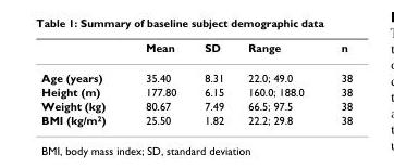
<table><thead><tr><td></td><td>Mean</td><td>SD</td><td>Range</td><td>n</td></tr></thead><tbody><tr><td>Age (years)</td><td>35.40</td><td>8.31</td><td>22.0; 49.0</td><td>38</td></tr><tr><td>Height (m)</td><td>177.80</td><td>6.15</td><td>160.0; 188.0</td><td>38</td></tr><tr><td>Weight (kg)</td><td>80.67</td><td>7.49</td><td>66.5; 97.5</td><td>38</td></tr><tr><td>BMI (kg/m<sup>2</sup>)</td><td>25.50</td><td>1.82</td><td>22.2; 29.8</td><td>38</td></tr></tbody></table>